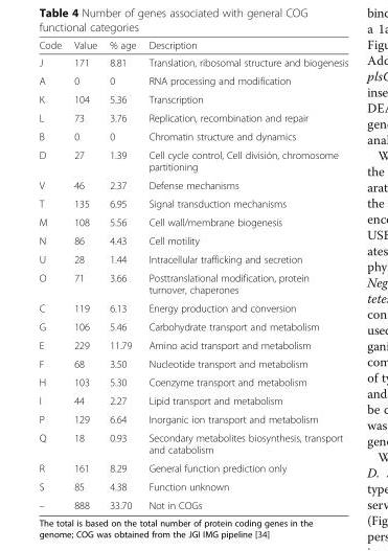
<table><thead><tr><td>Code</td><td>Value</td><td>% age</td><td>Description</td></tr></thead><tbody><tr><td>J</td><td>171</td><td>8.81</td><td>Translation, ribosomal structure and biogenesis</td></tr><tr><td>A</td><td>0</td><td>0</td><td>RNA processing and modification</td></tr><tr><td>K</td><td>104</td><td>5.36</td><td>Transcription</td></tr><tr><td>L</td><td>73</td><td>3.76</td><td>Replication, recombination and repair</td></tr><tr><td>B</td><td>0</td><td>0</td><td>Chromatin structure and dynamics</td></tr><tr><td>D</td><td>27</td><td>1.39</td><td>Cell cycle control, Cell división, chromosome partitioning</td></tr><tr><td>V</td><td>46</td><td>2.37</td><td>Defense mechanisms</td></tr><tr><td>T</td><td>135</td><td>6.95</td><td>Signal transduction mechanisms</td></tr><tr><td>M</td><td>108</td><td>5.56</td><td>Cell wall/membrane biogenesis</td></tr><tr><td>N</td><td>86</td><td>4.43</td><td>Cell motility</td></tr><tr><td>U</td><td>28</td><td>1.44</td><td>Intracellular trafficking and secretion</td></tr><tr><td>O</td><td>71</td><td>3.66</td><td>Posttranslational modification, protein turnover, chaperones</td></tr><tr><td>C</td><td>119</td><td>6.13</td><td>Energy production and conversion</td></tr><tr><td>G</td><td>106</td><td>5.46</td><td>Carbohydrate transport and metabolism</td></tr><tr><td>E</td><td>229</td><td>11.79</td><td>Amino acid transport and metabolism</td></tr><tr><td>F</td><td>68</td><td>3.50</td><td>Nucleotide transport and metabolism</td></tr><tr><td>H</td><td>103</td><td>5.30</td><td>Coenzyme transport and metabolism</td></tr><tr><td>I</td><td>44</td><td>2.27</td><td>Lipid transport and metabolism</td></tr><tr><td>P</td><td>129</td><td>6.64</td><td>Inorganic ion transport and metabolism</td></tr><tr><td>Q</td><td>18</td><td>0.93</td><td>Secondary metabolites biosynthesis, transport and catabolism</td></tr><tr><td>R</td><td>161</td><td>8.29</td><td>General function prediction only</td></tr><tr><td>S</td><td>85</td><td>4.38</td><td>Function unknown</td></tr><tr><td>–</td><td>888</td><td>33.70</td><td>Not in COGs</td></tr></tbody></table>